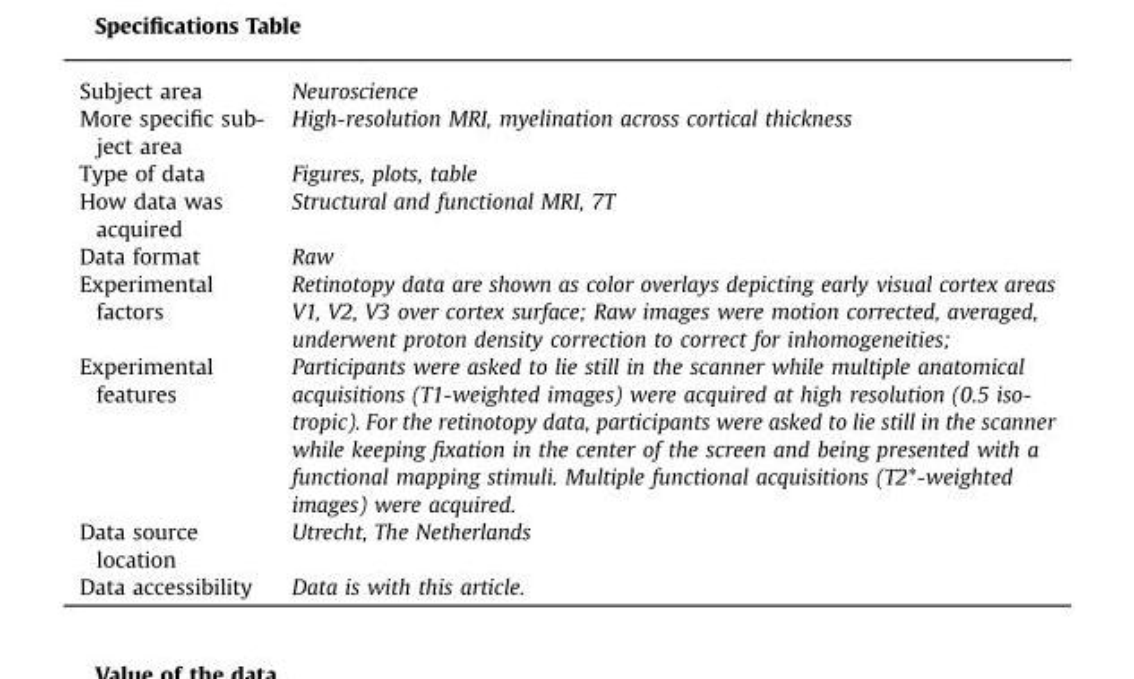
<table><tbody><tr><td>Subject area</td><td>Neuroscience</td></tr><tr><td>More specific sub- ject area</td><td>High-resolution MRI, myelination across cortical thickness</td></tr><tr><td>Type of data</td><td>Figures, plots, table</td></tr><tr><td>How data was acquired</td><td>Structural and functional MRI, 7T</td></tr><tr><td>Data format</td><td>Raw</td></tr><tr><td>Experimental factors</td><td>Retinotopy data are shown as color overlays depicting early visual cortex areas V1, V2, V3 over cortex surface; Raw images were motion corrected, averaged, underwent proton density correction to correct for inhomogeneities;</td></tr><tr><td>Experimental features</td><td>Participants were asked to lie still in the scanner while multiple anatomical acquisitions (T1-weighted images) were acquired at high resolution (0.5 iso- tropic). For the retinotopy data, participants were asked to lie still in the scanner while keeping fixation in the center of the screen and being presented with a functional mapping stimuli. Multiple functional acquisitions (T2*-weighted images) were acquired.</td></tr><tr><td>Data source location</td><td>Utrecht, The Netherlands</td></tr><tr><td>Data accessibility</td><td>Data is with this article.</td></tr></tbody></table>